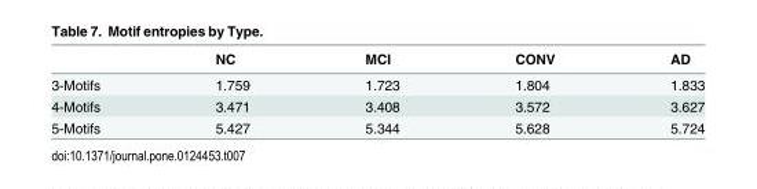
<table><thead><tr><td></td><td>NC</td><td>MCI</td><td>CONV</td><td>AD</td></tr></thead><tbody><tr><td>3-Motifs</td><td>1.759</td><td>1.723</td><td>1.804</td><td>1.833</td></tr><tr><td>4-Motifs</td><td>3.471</td><td>3.408</td><td>3.572</td><td>3.627</td></tr><tr><td>5-Motifs</td><td>5.427</td><td>5.344</td><td>5.628</td><td>5.724</td></tr></tbody></table>